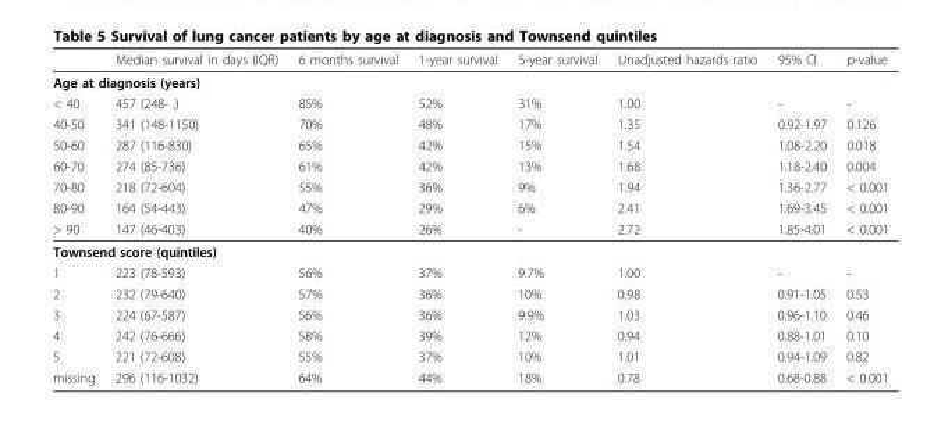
<table><thead><tr><td></td><td>Median survival in days (IQR)</td><td>6 months survival</td><td>1-year survival</td><td>5-year survival</td><td>Unadjusted hazards ratio</td><td>95% CI</td><td>p-value</td></tr></thead><tbody><tr><td colspan="8">Age at diagnosis (years)</td></tr><tr><td>&lt; 40</td><td>457 (248- .)</td><td>85%</td><td>52%</td><td>31%</td><td>1.00</td><td>-</td><td>-</td></tr><tr><td>40-50</td><td>341 (148-1150)</td><td>70%</td><td>48%</td><td>17%</td><td>1.35</td><td>0.92-1.97</td><td>0.126</td></tr><tr><td>50-60</td><td>287 (116-830)</td><td>65%</td><td>42%</td><td>15%</td><td>1.54</td><td>1.08-2.20</td><td>0.018</td></tr><tr><td>60-70</td><td>274 (85-736)</td><td>61%</td><td>42%</td><td>13%</td><td>1.68</td><td>1.18-2.40</td><td>0.004</td></tr><tr><td>70-80</td><td>218 (72-604)</td><td>55%</td><td>36%</td><td>9%</td><td>1.94</td><td>1.36-2.77</td><td>&lt; 0.001</td></tr><tr><td>80-90</td><td>164 (54-443)</td><td>47%</td><td>29%</td><td>6%</td><td>2.41</td><td>1.69-3.45</td><td>&lt; 0.001</td></tr><tr><td>&gt; 90</td><td>147 (46-403)</td><td>40%</td><td>26%</td><td>-</td><td>2.72</td><td>1.85-4.01</td><td>&lt; 0.001</td></tr><tr><td colspan="8">Townsend score (quintiles)</td></tr><tr><td>1</td><td>223 (78-593)</td><td>56%</td><td>37%</td><td>9.7%</td><td>1.00</td><td>-</td><td>-</td></tr><tr><td>2</td><td>232 (79-640)</td><td>57%</td><td>36%</td><td>10%</td><td>0.98</td><td>0.91-1.05</td><td>0.53</td></tr><tr><td>3</td><td>224 (67-587)</td><td>56%</td><td>36%</td><td>9.9%</td><td>1.03</td><td>0.96-1.10</td><td>0.46</td></tr><tr><td>4</td><td>242 (76-666)</td><td>58%</td><td>39%</td><td>12%</td><td>0.94</td><td>0.88-1.01</td><td>0.10</td></tr><tr><td>5</td><td>221 (72-608)</td><td>55%</td><td>37%</td><td>10%</td><td>1.01</td><td>0.94-1.09</td><td>0.82</td></tr><tr><td>missing</td><td>296 (116-1032)</td><td>64%</td><td>44%</td><td>18%</td><td>0.78</td><td>0.68-0.88</td><td>&lt; 0.001</td></tr></tbody></table>